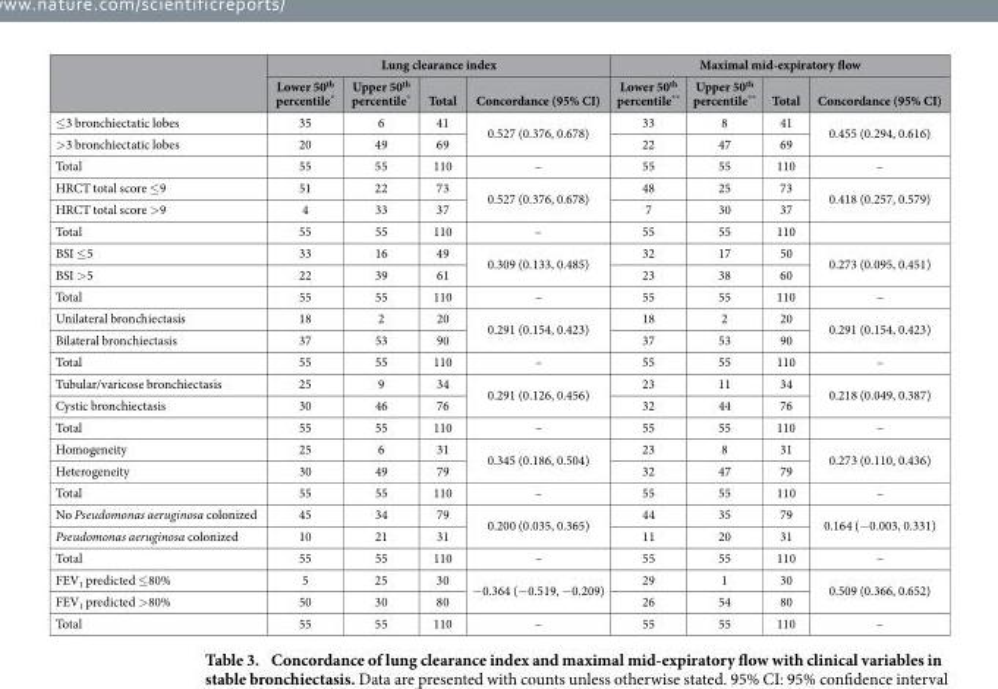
<table><thead><tr><td rowspan="2"></td><td colspan="4">Lung clearance index</td><td colspan="4">Maximal mid-expiratory flow</td></tr><tr><td>Lower 50<sup>th</sup> percentile*</td><td>Upper 50<sup>th</sup> percentile*</td><td>Total</td><td>Concordance (95% CI)</td><td>Lower 50<sup>th</sup> percentile**</td><td>Upper 50<sup>th</sup> percentile**</td><td>Total</td><td>Concordance (95% CI)</td></tr></thead><tbody><tr><td>≤ 3 bronchiectatic lobes</td><td>35</td><td>6</td><td>41</td><td rowspan="2">0.527 (0.376, 0.678)</td><td>33</td><td>8</td><td>41</td><td rowspan="2">0.455 (0.294, 0.616)</td></tr><tr><td>&gt; 3 bronchiectatic lobes</td><td>20</td><td>49</td><td>69</td><td>22</td><td>47</td><td>69</td></tr><tr><td>Total</td><td>55</td><td>55</td><td>110</td><td>–</td><td>55</td><td>55</td><td>110</td><td>–</td></tr><tr><td>HRCT total score ≤ 9</td><td>51</td><td>22</td><td>73</td><td rowspan="2">0.527 (0.376, 0.678)</td><td>48</td><td>25</td><td>73</td><td rowspan="2">0.418 (0.257, 0.579)</td></tr><tr><td>HRCT total score &gt; 9</td><td>4</td><td>33</td><td>37</td><td>7</td><td>30</td><td>37</td></tr><tr><td>Total</td><td>55</td><td>55</td><td>110</td><td>–</td><td>55</td><td>55</td><td>110</td><td></td></tr><tr><td>BSI ≤ 5</td><td>33</td><td>16</td><td>49</td><td rowspan="2">0.309 (0.133, 0.485)</td><td>32</td><td>17</td><td>50</td><td rowspan="2">0.273 (0.095, 0.451)</td></tr><tr><td>BSI &gt; 5</td><td>22</td><td>39</td><td>61</td><td>23</td><td>38</td><td>60</td></tr><tr><td>Total</td><td>55</td><td>55</td><td>110</td><td>–</td><td>55</td><td>55</td><td>110</td><td>–</td></tr><tr><td>Unilateral bronchiectasis</td><td>18</td><td>2</td><td>20</td><td rowspan="2">0.291 (0.154, 0.423)</td><td>18</td><td>2</td><td>20</td><td rowspan="2">0.291 (0.154, 0.423)</td></tr><tr><td>Bilateral bronchiectasis</td><td>37</td><td>53</td><td>90</td><td>37</td><td>53</td><td>90</td></tr><tr><td>Total</td><td>55</td><td>55</td><td>110</td><td>–</td><td>55</td><td>55</td><td>110</td><td>–</td></tr><tr><td>Tubular/varicose bronchiectasis</td><td>25</td><td>9</td><td>34</td><td rowspan="2">0.291 (0.126, 0.456)</td><td>23</td><td>11</td><td>34</td><td rowspan="2">0.218 (0.049, 0.387)</td></tr><tr><td>Cystic bronchiectasis</td><td>30</td><td>46</td><td>76</td><td>32</td><td>44</td><td>76</td></tr><tr><td>Total</td><td>55</td><td>55</td><td>110</td><td>–</td><td>55</td><td>55</td><td>110</td><td>–</td></tr><tr><td>Homogeneity</td><td>25</td><td>6</td><td>31</td><td rowspan="2">0.345 (0.186, 0.504)</td><td>23</td><td>8</td><td>31</td><td rowspan="2">0.273 (0.110, 0.436)</td></tr><tr><td>Heterogeneity</td><td>30</td><td>49</td><td>79</td><td>32</td><td>47</td><td>79</td></tr><tr><td>Total</td><td>55</td><td>55</td><td>110</td><td>–</td><td>55</td><td>55</td><td>110</td><td>–</td></tr><tr><td>No Pseudomonas aeruginosa colonized</td><td>45</td><td>34</td><td>79</td><td rowspan="2">0.200 (0.035, 0.365)</td><td>44</td><td>35</td><td>79</td><td rowspan="2">0.164 (− 0.003, 0.331)</td></tr><tr><td>Pseudomonas aeruginosa colonized</td><td>10</td><td>21</td><td>31</td><td>11</td><td>20</td><td>31</td></tr><tr><td>Total</td><td>55</td><td>55</td><td>110</td><td>–</td><td>55</td><td>55</td><td>110</td><td>–</td></tr><tr><td>FEV<sub>1</sub> predicted ≤ 80%</td><td>5</td><td>25</td><td>30</td><td rowspan="2">− 0.364 (− 0.519, − 0.209)</td><td>29</td><td>1</td><td>30</td><td rowspan="2">0.509 (0.366, 0.652)</td></tr><tr><td>FEV<sub>1</sub> predicted &gt; 80%</td><td>50</td><td>30</td><td>80</td><td>26</td><td>54</td><td>80</td></tr><tr><td>Total</td><td>55</td><td>55</td><td>110</td><td>–</td><td>55</td><td>55</td><td>110</td><td>–</td></tr></tbody></table>